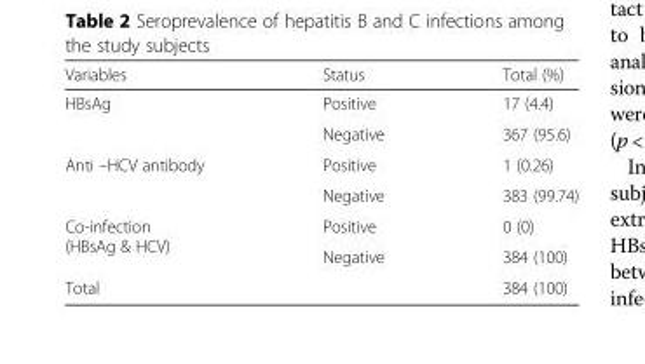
<table><thead><tr><td>Variables</td><td>Status</td><td>Total (%)</td></tr></thead><tbody><tr><td rowspan="2">HBsAg</td><td>Positive</td><td>17 (4.4)</td></tr><tr><td>Negative</td><td>367 (95.6)</td></tr><tr><td rowspan="2">Anti –HCV antibody</td><td>Positive</td><td>1 (0.26)</td></tr><tr><td>Negative</td><td>383 (99.74)</td></tr><tr><td rowspan="2">Co-infection (HBsAg &amp; HCV)</td><td>Positive</td><td>0 (0)</td></tr><tr><td>Negative</td><td>384 (100)</td></tr><tr><td>Total</td><td></td><td>384 (100)</td></tr></tbody></table>